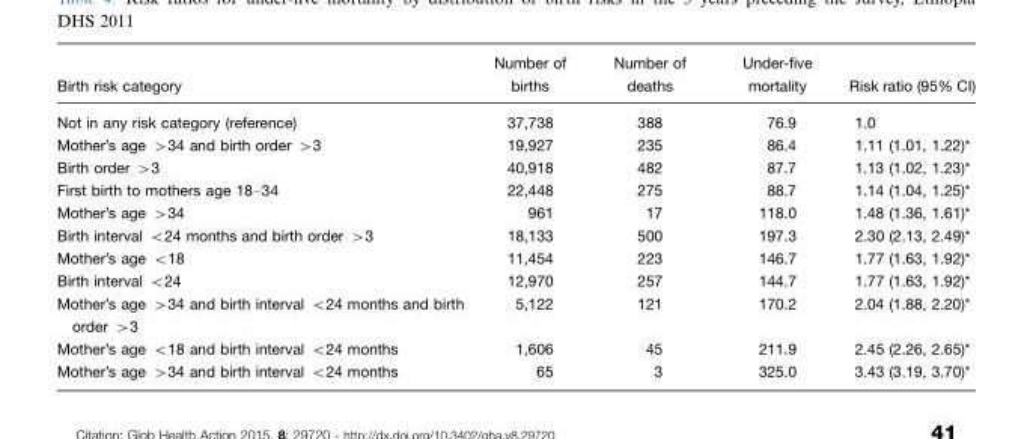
<table><thead><tr><td>Birth risk category</td><td>Number of births</td><td>Number of deaths</td><td>Under-five mortality</td><td>Risk ratio (95% CI)</td></tr></thead><tbody><tr><td>Not in any risk category (reference)</td><td>37,738</td><td>388</td><td>76.9</td><td>1.0</td></tr><tr><td>Mother’s age &gt;34 and birth order &gt;3</td><td>19,927</td><td>235</td><td>86.4</td><td>1.11 (1.01, 1.22)*</td></tr><tr><td>Birth order &gt;3</td><td>40,918</td><td>482</td><td>87.7</td><td>1.13 (1.02, 1.23)*</td></tr><tr><td>First birth to mothers age 18–34</td><td>22,448</td><td>275</td><td>88.7</td><td>1.14 (1.04, 1.25)*</td></tr><tr><td>Mother’s age &gt;34</td><td>961</td><td>17</td><td>118.0</td><td>1.48 (1.36, 1.61)*</td></tr><tr><td>Birth interval &lt;24 months and birth order &gt;3</td><td>18,133</td><td>500</td><td>197.3</td><td>2.30 (2.13, 2.49)*</td></tr><tr><td>Mother’s age &lt;18</td><td>11,454</td><td>223</td><td>146.7</td><td>1.77 (1.63, 1.92)*</td></tr><tr><td>Birth interval &lt;24</td><td>12,970</td><td>257</td><td>144.7</td><td>1.77 (1.63, 1.92)*</td></tr><tr><td>Mother’s age &gt;34 and birth interval &lt;24 months and birth order &gt;3</td><td>5,122</td><td>121</td><td>170.2</td><td>2.04 (1.88, 2.20)*</td></tr><tr><td>Mother’s age &lt;18 and birth interval &lt;24 months</td><td>1,606</td><td>45</td><td>211.9</td><td>2.45 (2.26, 2.65)*</td></tr><tr><td>Mother’s age &gt;34 and birth interval &lt;24 months</td><td>65</td><td>3</td><td>325.0</td><td>3.43 (3.19, 3.70)*</td></tr></tbody></table>